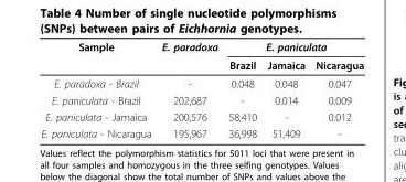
<table><thead><tr><td rowspan="2">Sample</td><td rowspan="2">E. paradoxa</td><td colspan="3">E. paniculata</td></tr><tr><td>Brazil</td><td>Jamaica</td><td>Nicaragua</td></tr></thead><tbody><tr><td>E. paradoxa - Brazil</td><td>-</td><td>0.048</td><td>0.048</td><td>0.047</td></tr><tr><td>E. paniculata - Brazil</td><td>202,687</td><td>-</td><td>0.014</td><td>0.009</td></tr><tr><td>E. paniculata - Jamaica</td><td>200,576</td><td>58,410</td><td>-</td><td>0.012</td></tr><tr><td>E. paniculata - Nicaragua</td><td>195,967</td><td>36,998</td><td>51,409</td><td>-</td></tr></tbody></table>